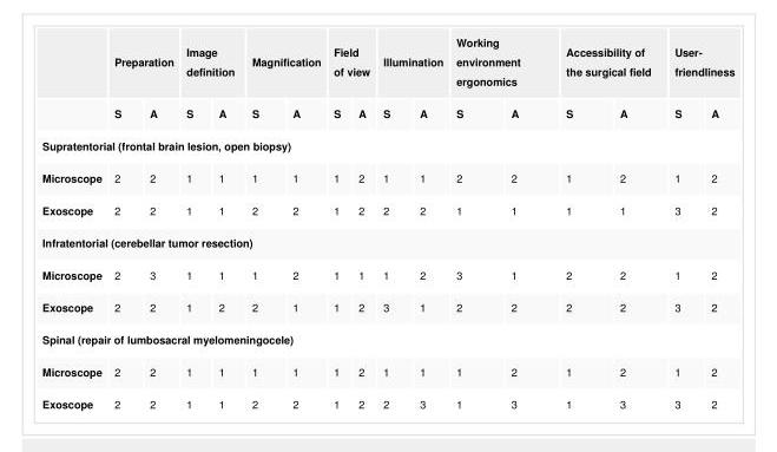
<table><thead><tr><td rowspan="2"></td><td colspan="2">Preparation</td><td colspan="2">Image definition</td><td colspan="2">Magnification</td><td colspan="2">Field of view</td><td colspan="2">Illumination</td><td colspan="2">Working environment ergonomics</td><td colspan="2">Accessibility of the surgical field</td><td colspan="2">User- friendliness</td></tr><tr><td>S</td><td>A</td><td>S</td><td>A</td><td>S</td><td>A</td><td>S</td><td>A</td><td>S</td><td>A</td><td>S</td><td>A</td><td>S</td><td>A</td><td>S</td><td>A</td></tr></thead><tbody><tr><td colspan="17">Supratentorial (frontal brain lesion, open biopsy)</td></tr><tr><td>Microscope</td><td>2</td><td>2</td><td>1</td><td>1</td><td>1</td><td>1</td><td>1</td><td>2</td><td>1</td><td>1</td><td>2</td><td>2</td><td>1</td><td>2</td><td>1</td><td>2</td></tr><tr><td>Exoscope</td><td>2</td><td>2</td><td>1</td><td>1</td><td>2</td><td>2</td><td>1</td><td>2</td><td>2</td><td>2</td><td>1</td><td>1</td><td>1</td><td>1</td><td>3</td><td>2</td></tr><tr><td colspan="17">Infratentorial (cerebellar tumor resection)</td></tr><tr><td>Microscope</td><td>2</td><td>3</td><td>1</td><td>1</td><td>1</td><td>2</td><td>1</td><td>1</td><td>1</td><td>2</td><td>3</td><td>1</td><td>2</td><td>2</td><td>1</td><td>2</td></tr><tr><td>Exoscope</td><td>2</td><td>2</td><td>1</td><td>2</td><td>2</td><td>1</td><td>1</td><td>2</td><td>3</td><td>1</td><td>2</td><td>2</td><td>2</td><td>2</td><td>3</td><td>2</td></tr><tr><td colspan="17">Spinal (repair of lumbosacral myelomeningocele)</td></tr><tr><td>Microscope</td><td>2</td><td>2</td><td>1</td><td>1</td><td>1</td><td>1</td><td>1</td><td>2</td><td>1</td><td>1</td><td>1</td><td>2</td><td>1</td><td>2</td><td>1</td><td>2</td></tr><tr><td>Exoscope</td><td>2</td><td>2</td><td>1</td><td>1</td><td>2</td><td>2</td><td>1</td><td>2</td><td>2</td><td>3</td><td>1</td><td>3</td><td>1</td><td>3</td><td>3</td><td>2</td></tr></tbody></table>